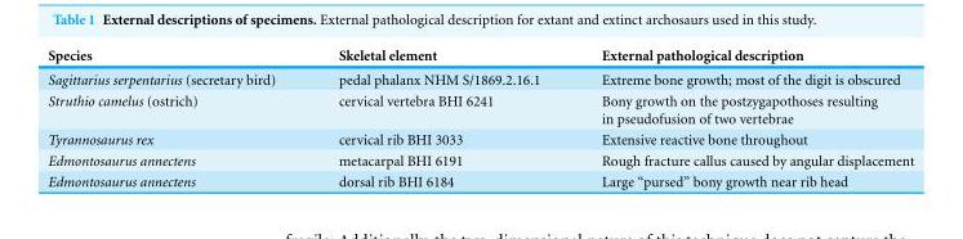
<table><thead><tr><td>Species</td><td>Skeletal element</td><td>External pathological description</td></tr></thead><tbody><tr><td>Sagittarius serpentarius (secretary bird)</td><td>pedal phalanx NHM S/1869.2.16.1</td><td>Extreme bone growth; most of the digit is obscured</td></tr><tr><td>Struthio camelus (ostrich)</td><td>cervical vertebra BHI 6241</td><td>Bony growth on the postzygapothoses resulting in pseudofusion of two vertebrae</td></tr><tr><td>Tyrannosaurus rex</td><td>cervical rib BHI 3033</td><td>Extensive reactive bone throughout</td></tr><tr><td>Edmontosaurus annectens</td><td>metacarpal BHI 6191</td><td>Rough fracture callus caused by angular displacement</td></tr><tr><td>Edmontosaurus annectens</td><td>dorsal rib BHI 6184</td><td>Large “pursed” bony growth near rib head</td></tr></tbody></table>